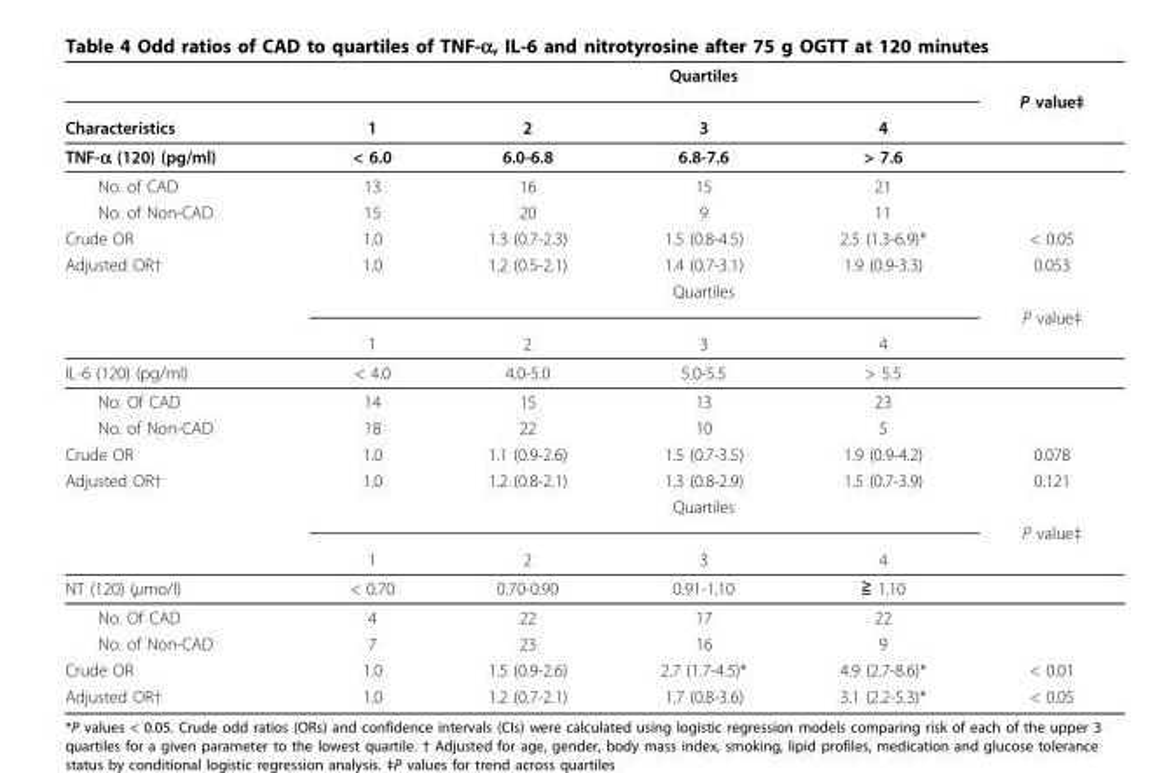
<table><thead><tr><td rowspan="3">Characteristics</td><td rowspan="3">1</td><td rowspan="3">2</td><td rowspan="3">Quartiles 3</td><td rowspan="3">4</td><td rowspan="3">P value‡</td></tr><tr></tr><tr></tr></thead><tbody><tr><td>TNF-α (120) (pg/ml)</td><td>&lt; 6.0</td><td>6.0-6.8</td><td>6.8-7.6</td><td>&gt; 7.6</td><td></td></tr><tr><td>No. of CAD</td><td>13</td><td>16</td><td>15</td><td>21</td><td></td></tr><tr><td>No. of Non-CAD</td><td>15</td><td>20</td><td>9</td><td>11</td><td></td></tr><tr><td>Crude OR</td><td>1.0</td><td>1.3 (0.7-2.3)</td><td>1.5 (0.8-4.5)</td><td>2.5 (1.3-6.9)*</td><td>&lt; 0.05</td></tr><tr><td rowspan="4">Adjusted OR†</td><td>1.0</td><td>1.2 (0.5-2.1)</td><td>1.4 (0.7-3.1)</td><td>1.9 (0.9-3.3)</td><td>0.053</td></tr><tr><td></td><td></td><td>Quartiles</td><td></td><td></td></tr><tr><td colspan="4"></td><td>P value‡</td></tr><tr><td>1</td><td>2</td><td>3</td><td>4</td><td></td></tr><tr><td>IL-6 (120) (pg/ml)</td><td>&lt; 4.0</td><td>4.0-5.0</td><td>5.0-5.5</td><td>&gt; 5.5</td><td></td></tr><tr><td>No. Of CAD</td><td>14</td><td>15</td><td>13</td><td>23</td><td></td></tr><tr><td>No. of Non-CAD</td><td>18</td><td>22</td><td>10</td><td>5</td><td></td></tr><tr><td>Crude OR</td><td>1.0</td><td>1.1 (0.9-2.6)</td><td>1.5 (0.7-3.5)</td><td>1.9 (0.9-4.2)</td><td>0.078</td></tr><tr><td rowspan="4">Adjusted OR†</td><td>1.0</td><td>1.2 (0.8-2.1)</td><td>1.3 (0.8-2.9)</td><td>1.5 (0.7-3.9)</td><td>0.121</td></tr><tr><td></td><td></td><td>Quartiles</td><td></td><td></td></tr><tr><td colspan="4"></td><td>P value‡</td></tr><tr><td>1</td><td>2</td><td>3</td><td>4</td><td></td></tr><tr><td>NT (120) (μmo/l)</td><td>&lt; 0.70</td><td>0.70-0.90</td><td>0.91-1.10</td><td>≧ 1.10</td><td></td></tr><tr><td>No. Of CAD</td><td>4</td><td>22</td><td>17</td><td>22</td><td></td></tr><tr><td>No. of Non-CAD</td><td>7</td><td>23</td><td>16</td><td>9</td><td></td></tr><tr><td>Crude OR</td><td>1.0</td><td>1.5 (0.9-2.6)</td><td>2.7 (1.7-4.5)*</td><td>4.9 (2.7-8.6)*</td><td>&lt; 0.01</td></tr><tr><td>Adjusted OR†</td><td>1.0</td><td>1.2 (0.7-2.1)</td><td>1.7 (0.8-3.6)</td><td>3.1 (2.2-5.3)*</td><td>&lt; 0.05</td></tr></tbody></table>